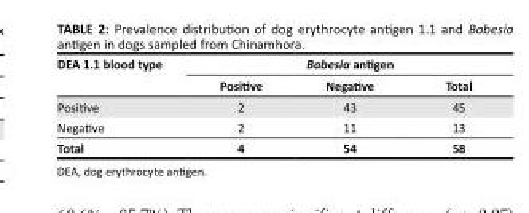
<table><thead><tr><td rowspan="2">DEA 1.1 blood type</td><td colspan="3">Babesia antigen</td></tr><tr><td>Positive</td><td>Negative</td><td>Total</td></tr></thead><tbody><tr><td>Positive</td><td>2</td><td>43</td><td>45</td></tr><tr><td>Negative</td><td>2</td><td>11</td><td>13</td></tr><tr><td>Total</td><td>4</td><td>54</td><td>58</td></tr></tbody></table>